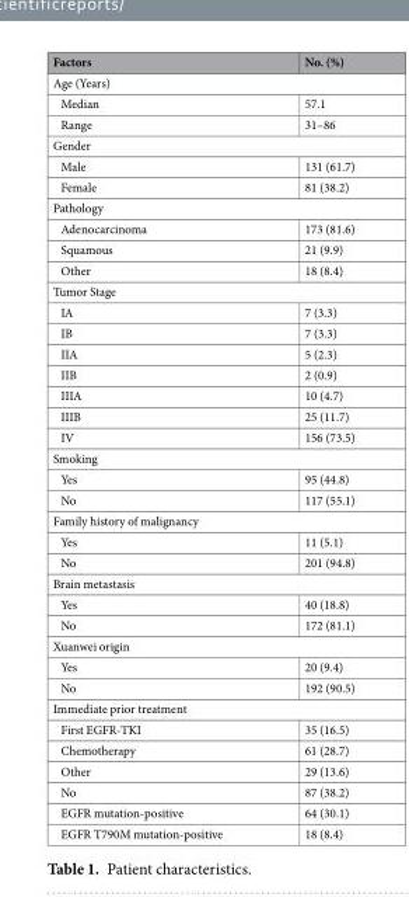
<table><thead><tr><td>Factors</td><td>No. (%)</td></tr></thead><tbody><tr><td colspan="2">Age (Years)</td></tr><tr><td>Median</td><td>57.1</td></tr><tr><td>Range</td><td>31–86</td></tr><tr><td colspan="2">Gender</td></tr><tr><td>Male</td><td>131 (61.7)</td></tr><tr><td>Female</td><td>81 (38.2)</td></tr><tr><td colspan="2">Pathology</td></tr><tr><td>Adenocarcinoma</td><td>173 (81.6)</td></tr><tr><td>Squamous</td><td>21 (9.9)</td></tr><tr><td>Other</td><td>18 (8.4)</td></tr><tr><td colspan="2">Tumor Stage</td></tr><tr><td>IA</td><td>7 (3.3)</td></tr><tr><td>IB</td><td>7 (3.3)</td></tr><tr><td>IIA</td><td>5 (2.3)</td></tr><tr><td>IIB</td><td>2 (0.9)</td></tr><tr><td>IIIA</td><td>10 (4.7)</td></tr><tr><td>IIIB</td><td>25 (11.7)</td></tr><tr><td>IV</td><td>156 (73.5)</td></tr><tr><td colspan="2">Smoking</td></tr><tr><td>Yes</td><td>95 (44.8)</td></tr><tr><td>No</td><td>117 (55.1)</td></tr><tr><td colspan="2">Family history of malignancy</td></tr><tr><td>Yes</td><td>11 (5.1)</td></tr><tr><td>No</td><td>201 (94.8)</td></tr><tr><td colspan="2">Brain metastasis</td></tr><tr><td>Yes</td><td>40 (18.8)</td></tr><tr><td>No</td><td>172 (81.1)</td></tr><tr><td colspan="2">Xuanwei origin</td></tr><tr><td>Yes</td><td>20 (9.4)</td></tr><tr><td>No</td><td>192 (90.5)</td></tr><tr><td colspan="2">Immediate prior treatment</td></tr><tr><td>First EGFR-TKI</td><td>35 (16.5)</td></tr><tr><td>Chemotherapy</td><td>61 (28.7)</td></tr><tr><td>Other</td><td>29 (13.6)</td></tr><tr><td>No</td><td>87 (38.2)</td></tr><tr><td>EGFR mutation-positive</td><td>64 (30.1)</td></tr><tr><td>EGFR T790M mutation-positive</td><td>18 (8.4)</td></tr></tbody></table>